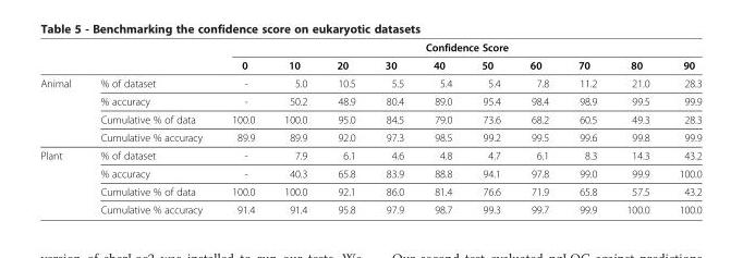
<table><thead><tr><td rowspan="2"></td><td rowspan="2"></td><td colspan="10">Confidence Score</td></tr><tr><td>0</td><td>10</td><td>20</td><td>30</td><td>40</td><td>50</td><td>60</td><td>70</td><td>80</td><td>90</td></tr></thead><tbody><tr><td rowspan="4">Animal</td><td>% of dataset</td><td>-</td><td>5.0</td><td>10.5</td><td>5.5</td><td>5.4</td><td>5.4</td><td>7.8</td><td>11.2</td><td>21.0</td><td>28.3</td></tr><tr><td>% accuracy</td><td>-</td><td>50.2</td><td>48.9</td><td>80.4</td><td>89.0</td><td>95.4</td><td>98.4</td><td>98.9</td><td>99.5</td><td>99.9</td></tr><tr><td>Cumulative % of data</td><td>100.0</td><td>100.0</td><td>95.0</td><td>84.5</td><td>79.0</td><td>73.6</td><td>68.2</td><td>60.5</td><td>49.3</td><td>28.3</td></tr><tr><td>Cumulative % accuracy</td><td>89.9</td><td>89.9</td><td>92.0</td><td>97.3</td><td>98.5</td><td>99.2</td><td>99.5</td><td>99.6</td><td>99.8</td><td>99.9</td></tr><tr><td rowspan="4">Plant</td><td>% of dataset</td><td>-</td><td>7.9</td><td>6.1</td><td>4.6</td><td>4.8</td><td>4.7</td><td>6.1</td><td>8.3</td><td>14.3</td><td>43.2</td></tr><tr><td>% accuracy</td><td>-</td><td>40.3</td><td>65.8</td><td>83.9</td><td>88.8</td><td>94.1</td><td>97.8</td><td>99.0</td><td>99.9</td><td>100.0</td></tr><tr><td>Cumulative % of data</td><td>100.0</td><td>100.0</td><td>92.1</td><td>86.0</td><td>81.4</td><td>76.6</td><td>71.9</td><td>65.8</td><td>57.5</td><td>43.2</td></tr><tr><td>Cumulative % accuracy</td><td>91.4</td><td>91.4</td><td>95.8</td><td>97.9</td><td>98.7</td><td>99.3</td><td>99.7</td><td>99.9</td><td>100.0</td><td>100.0</td></tr></tbody></table>